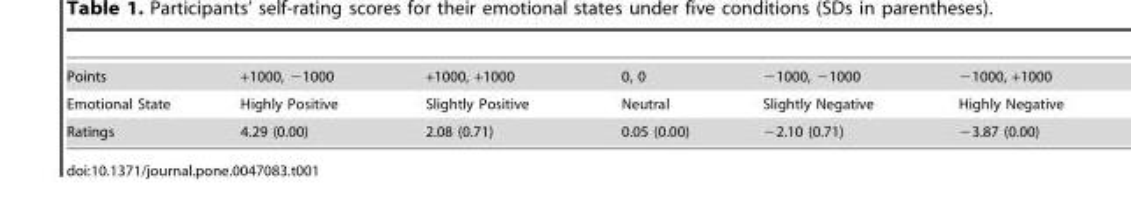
<table><tbody><tr><td>Points</td><td>+1000, −1000</td><td>+1000, +1000</td><td>0, 0</td><td>−1000, −1000</td><td>−1000, +1000</td></tr><tr><td>Emotional State</td><td>Highly Positive</td><td>Slightly Positive</td><td>Neutral</td><td>Slightly Negative</td><td>Highly Negative</td></tr><tr><td>Ratings</td><td>4.29 (0.00)</td><td>2.08 (0.71)</td><td>0.05 (0.00)</td><td>−2.10 (0.71)</td><td>−3.87 (0.00)</td></tr></tbody></table>